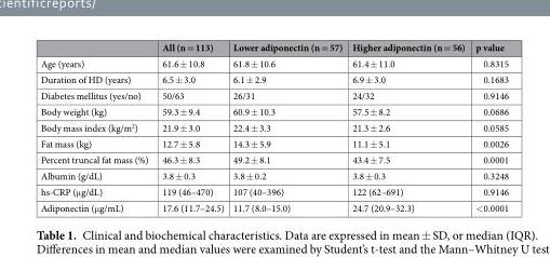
<table><thead><tr><td></td><td>All (n = 113)</td><td>Lower adiponectin (n = 57)</td><td>Higher adiponectin (n = 56)</td><td>p value</td></tr></thead><tbody><tr><td>Age (years)</td><td>61.6 ± 10.8</td><td>61.8 ± 10.6</td><td>61.4 ± 11.0</td><td>0.8315</td></tr><tr><td>Duration of HD (years)</td><td>6.5 ± 3.0</td><td>6.1 ± 2.9</td><td>6.9 ± 3.0</td><td>0.1683</td></tr><tr><td>Diabetes mellitus (yes/no)</td><td>50/63</td><td>26/31</td><td>24/32</td><td>0.9146</td></tr><tr><td>Body weight (kg)</td><td>59.3 ± 9.4</td><td>60.9 ± 10.3</td><td>57.5 ± 8.2</td><td>0.0686</td></tr><tr><td>Body mass index (kg/m<sup>2</sup>)</td><td>21.9 ± 3.0</td><td>22.4 ± 3.3</td><td>21.3 ± 2.6</td><td>0.0585</td></tr><tr><td>Fat mass (kg)</td><td>12.7 ± 5.8</td><td>14.3 ± 5.9</td><td>11.1 ± 5.1</td><td>0.0026</td></tr><tr><td>Percent truncal fat mass (%)</td><td>46.3 ± 8.3</td><td>49.2 ± 8.1</td><td>43.4 ± 7.5</td><td>0.0001</td></tr><tr><td>Albumin (g/dL)</td><td>3.8 ± 0.3</td><td>3.8 ± 0.2</td><td>3.8 ± 0.3</td><td>0.3248</td></tr><tr><td>hs-CRP (μg/dL)</td><td>119 (46–470)</td><td>107 (40–396)</td><td>122 (62–691)</td><td>0.9146</td></tr><tr><td>Adiponectin (μg/mL)</td><td>17.6 (11.7–24.5)</td><td>11.7 (8.0–15.0)</td><td>24.7 (20.9–32.3)</td><td>&lt;0.0001</td></tr></tbody></table>